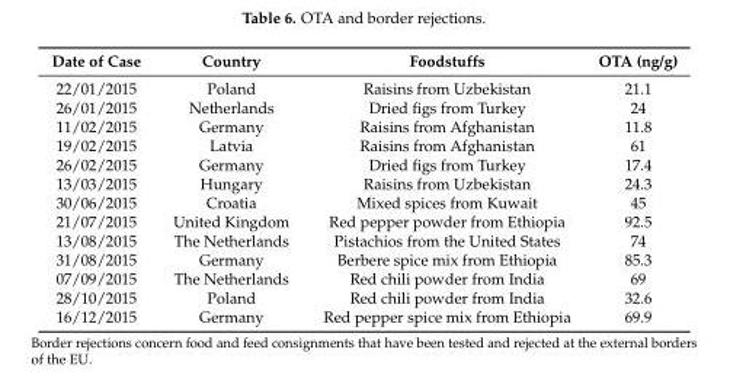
<table><thead><tr><td>Date of Case</td><td>Country</td><td>Foodstuffs</td><td>OTA (ng/g)</td></tr></thead><tbody><tr><td>22/01/2015</td><td>Poland</td><td>Raisins from Uzbekistan</td><td>21.1</td></tr><tr><td>26/01/2015</td><td>Netherlands</td><td>Dried figs from Turkey</td><td>24</td></tr><tr><td>11/02/2015</td><td>Germany</td><td>Raisins from Afghanistan</td><td>11.8</td></tr><tr><td>19/02/2015</td><td>Latvia</td><td>Raisins from Afghanistan</td><td>61</td></tr><tr><td>26/02/2015</td><td>Germany</td><td>Dried figs from Turkey</td><td>17.4</td></tr><tr><td>13/03/2015</td><td>Hungary</td><td>Raisins from Uzbekistan</td><td>24.3</td></tr><tr><td>30/06/2015</td><td>Croatia</td><td>Mixed spices from Kuwait</td><td>45</td></tr><tr><td>21/07/2015</td><td>United Kingdom</td><td>Red pepper powder from Ethiopia</td><td>92.5</td></tr><tr><td>13/08/2015</td><td>The Netherlands</td><td>Pistachios from the United States</td><td>74</td></tr><tr><td>31/08/2015</td><td>Germany</td><td>Berbere spice mix from Ethiopia</td><td>85.3</td></tr><tr><td>07/09/2015</td><td>The Netherlands</td><td>Red chili powder from India</td><td>69</td></tr><tr><td>28/10/2015</td><td>Poland</td><td>Red chili powder from India</td><td>32.6</td></tr><tr><td>16/12/2015</td><td>Germany</td><td>Red pepper spice mix from Ethiopia</td><td>69.9</td></tr></tbody></table>